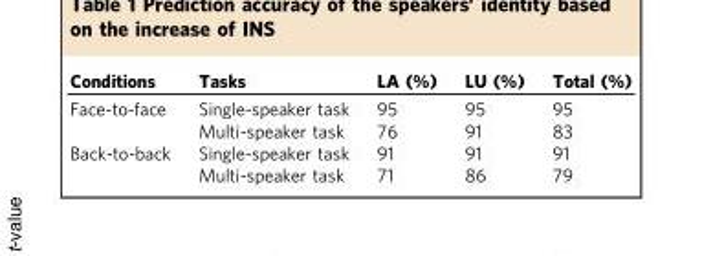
<table><thead><tr><td>Conditions</td><td>Tasks</td><td>LA (%)</td><td>LU (%)</td><td>Total (%)</td></tr></thead><tbody><tr><td rowspan="2">Face-to-face</td><td>Single-speaker task</td><td>95</td><td>95</td><td>95</td></tr><tr><td>Multi-speaker task</td><td>76</td><td>91</td><td>83</td></tr><tr><td rowspan="2">Back-to-back</td><td>Single-speaker task</td><td>91</td><td>91</td><td>91</td></tr><tr><td>Multi-speaker task</td><td>71</td><td>86</td><td>79</td></tr></tbody></table>